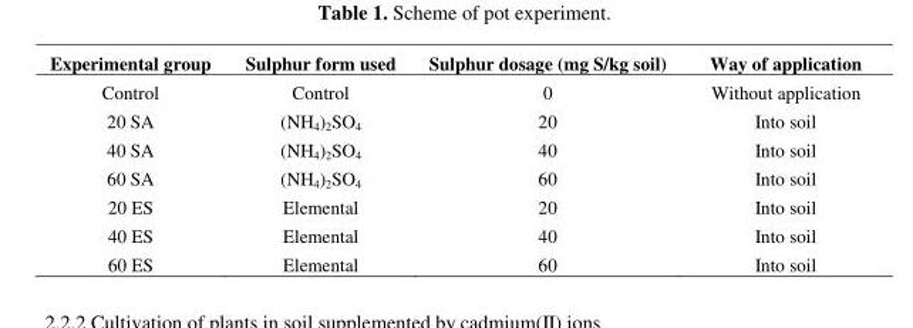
<table><thead><tr><td>Experimental group</td><td>Sulphur form used</td><td>Sulphur dosage (mg S/kg soil)</td><td>Way of application</td></tr></thead><tbody><tr><td>Control</td><td>Control</td><td>0</td><td>Without application</td></tr><tr><td>20 SA</td><td>(NH<sub>4</sub>)<sub>2</sub>SO<sub>4</sub></td><td>20</td><td>Into soil</td></tr><tr><td>40 SA</td><td>(NH<sub>4</sub>)<sub>2</sub>SO<sub>4</sub></td><td>40</td><td>Into soil</td></tr><tr><td>60 SA</td><td>(NH<sub>4</sub>)<sub>2</sub>SO<sub>4</sub></td><td>60</td><td>Into soil</td></tr><tr><td>20 ES</td><td>Elemental</td><td>20</td><td>Into soil</td></tr><tr><td>40 ES</td><td>Elemental</td><td>40</td><td>Into soil</td></tr><tr><td>60 ES</td><td>Elemental</td><td>60</td><td>Into soil</td></tr></tbody></table>